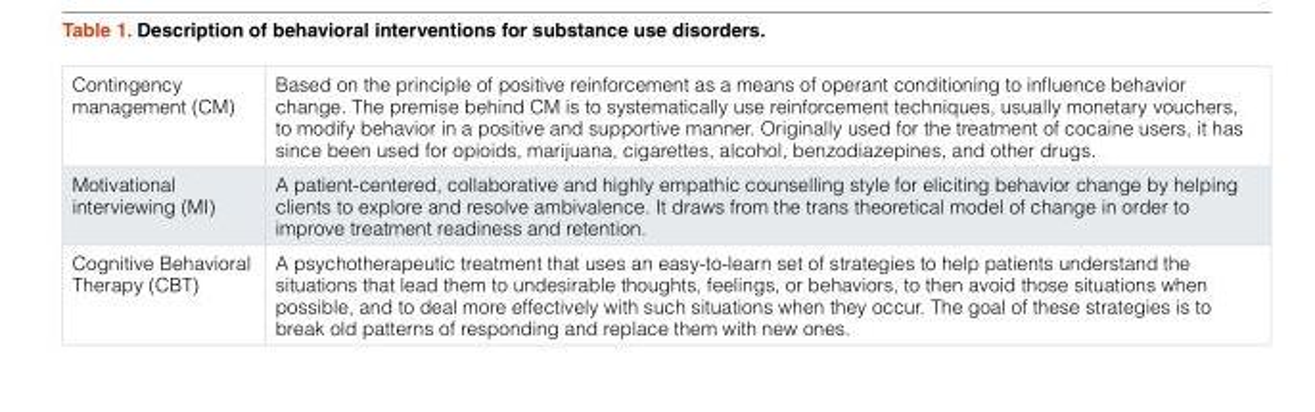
<table><tbody><tr><td>Contingency management (CM)</td><td>Based on the principle of positive reinforcement as a means of operant conditioning to influence behavior change. The premise behind CM is to systematically use reinforcement techniques, usually monetary vouchers, to modify behavior in a positive and supportive manner. Originally used for the treatment of cocaine users, it has since been used for opioids, marijuana, cigarettes, alcohol, benzodiazepines, and other drugs.</td></tr><tr><td>Motivational interviewing (MI)</td><td>A patient-centered, collaborative and highly empathic counselling style for eliciting behavior change by helping clients to explore and resolve ambivalence. It draws from the trans theoretical model of change in order to improve treatment readiness and retention.</td></tr><tr><td>Cognitive Behavioral Therapy (CBT)</td><td>A psychotherapeutic treatment that uses an easy-to-learn set of strategies to help patients understand the situations that lead them to undesirable thoughts, feelings, or behaviors, to then avoid those situations when possible, and to deal more effectively with such situations when they occur. The goal of these strategies is to break old patterns of responding and replace them with new ones.</td></tr></tbody></table>